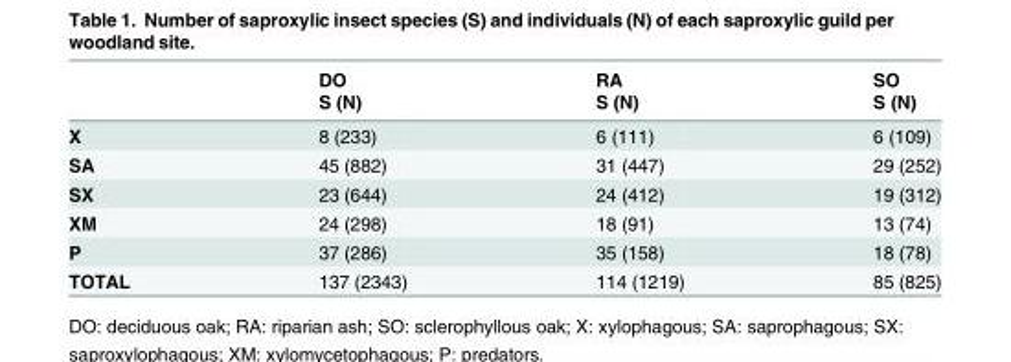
<table><thead><tr><td rowspan="2"></td><td rowspan="2">DO S (N)</td><td rowspan="2">RA S (N)</td><td rowspan="2">SO S (N)</td></tr><tr></tr></thead><tbody><tr><td>X</td><td>8 (233)</td><td>6 (111)</td><td>6 (109)</td></tr><tr><td>SA</td><td>45 (882)</td><td>31 (447)</td><td>29 (252)</td></tr><tr><td>SX</td><td>23 (644)</td><td>24 (412)</td><td>19 (312)</td></tr><tr><td>XM</td><td>24 (298)</td><td>18 (91)</td><td>13 (74)</td></tr><tr><td>P</td><td>37 (286)</td><td>35 (158)</td><td>18 (78)</td></tr><tr><td>TOTAL</td><td>137 (2343)</td><td>114 (1219)</td><td>85 (825)</td></tr></tbody></table>